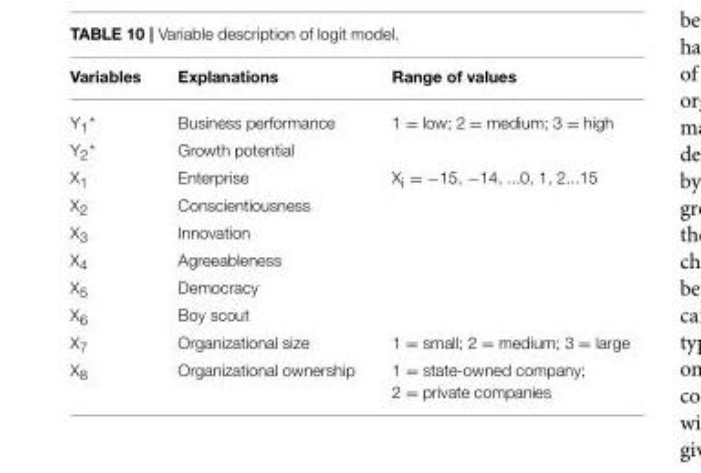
<table><thead><tr><td>Variables</td><td>Explanations</td><td>Range of values</td></tr></thead><tbody><tr><td>Y<sub>1</sub>*</td><td>Business performance</td><td>1 = low; 2 = medium; 3 = high</td></tr><tr><td>Y<sub>2</sub>*</td><td>Growth potential</td><td></td></tr><tr><td>X<sub>1</sub></td><td>Enterprise</td><td>X<sub>i</sub> = −15, −14, ...0, 1, 2...15</td></tr><tr><td>X<sub>2</sub></td><td>Conscientiousness</td><td></td></tr><tr><td>X<sub>3</sub></td><td>Innovation</td><td></td></tr><tr><td>X<sub>4</sub></td><td>Agreeableness</td><td></td></tr><tr><td>X<sub>5</sub></td><td>Democracy</td><td></td></tr><tr><td>X<sub>6</sub></td><td>Boy scout</td><td></td></tr><tr><td>X<sub>7</sub></td><td>Organizational size</td><td>1 = small; 2 = medium; 3 = large</td></tr><tr><td>X<sub>8</sub></td><td>Organizational ownership</td><td>1 = state-owned company; 2 = private companies</td></tr></tbody></table>